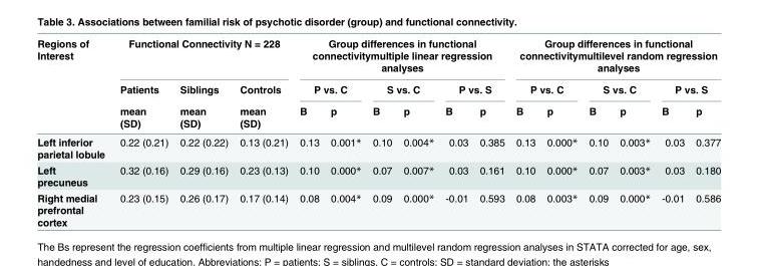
<table><thead><tr><td rowspan="3">Regions of Interest</td><td colspan="3">Functional Connectivity N = 228</td><td colspan="6">Group differences in functional connectivitymultiple linear regression analyses</td><td colspan="6">Group differences in functional connectivitymultilevel random regression analyses</td></tr><tr><td rowspan="2">Patients mean (SD)</td><td rowspan="2">Siblings mean (SD)</td><td rowspan="2">Controls mean (SD)</td><td colspan="2">P vs. C</td><td colspan="2">S vs. C</td><td colspan="2">P vs. S</td><td colspan="2">P vs. C</td><td colspan="2">S vs. C</td><td colspan="2">P vs. S</td></tr><tr><td>B</td><td>p</td><td>B</td><td>p</td><td>B</td><td>p</td><td>B</td><td>p</td><td>B</td><td>p</td><td>B</td><td>p</td></tr></thead><tbody><tr><td>Left inferior parietal lobule</td><td>0.22 (0.21)</td><td>0.22 (0.22)</td><td>0.13 (0.21)</td><td>0.13</td><td>0.001*</td><td>0.10</td><td>0.004*</td><td>0.03</td><td>0.385</td><td>0.13</td><td>0.000*</td><td>0.10</td><td>0.003*</td><td>0.03</td><td>0.377</td></tr><tr><td>Left precuneus</td><td>0.32 (0.16)</td><td>0.29 (0.16)</td><td>0.23 (0.13)</td><td>0.10</td><td>0.000*</td><td>0.07</td><td>0.007*</td><td>0.03</td><td>0.161</td><td>0.10</td><td>0.000*</td><td>0.07</td><td>0.003*</td><td>0.03</td><td>0.180</td></tr><tr><td>Right medial prefrontal cortex</td><td>0.23 (0.15)</td><td>0.26 (0.17)</td><td>0.17 (0.14)</td><td>0.08</td><td>0.004*</td><td>0.09</td><td>0.000*</td><td>-0.01</td><td>0.593</td><td>0.08</td><td>0.003*</td><td>0.09</td><td>0.000*</td><td>-0.01</td><td>0.586</td></tr></tbody></table>